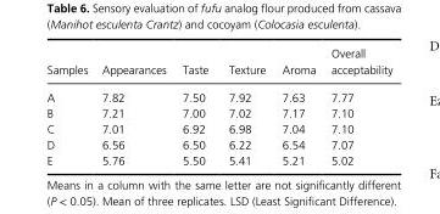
<table><thead><tr><td>Samples</td><td>Appearances</td><td>Taste</td><td>Texture</td><td>Aroma</td><td>Overall acceptability</td></tr></thead><tbody><tr><td>A</td><td>7.82</td><td>7.50</td><td>7.92</td><td>7.63</td><td>7.77</td></tr><tr><td>B</td><td>7.21</td><td>7.00</td><td>7.02</td><td>7.17</td><td>7.10</td></tr><tr><td>C</td><td>7.01</td><td>6.92</td><td>6.98</td><td>7.04</td><td>7.10</td></tr><tr><td>D</td><td>6.56</td><td>6.50</td><td>6.22</td><td>6.54</td><td>7.07</td></tr><tr><td>E</td><td>5.76</td><td>5.50</td><td>5.41</td><td>5.21</td><td>5.02</td></tr></tbody></table>